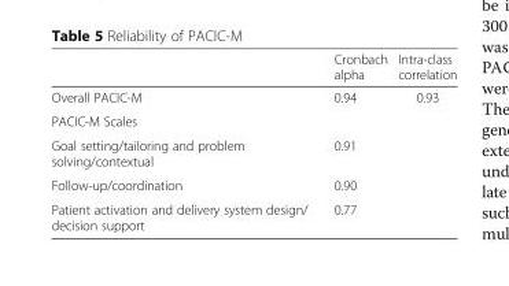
<table><thead><tr><td></td><td>Cronbach alpha</td><td>Intra-class correlation</td></tr></thead><tbody><tr><td>Overall PACIC-M</td><td>0.94</td><td>0.93</td></tr><tr><td colspan="3">PACIC-M Scales</td></tr><tr><td>Goal setting/tailoring and problem solving/contextual</td><td>0.91</td><td></td></tr><tr><td>Follow-up/coordination</td><td>0.90</td><td></td></tr><tr><td>Patient activation and delivery system design/ decision support</td><td>0.77</td><td></td></tr></tbody></table>